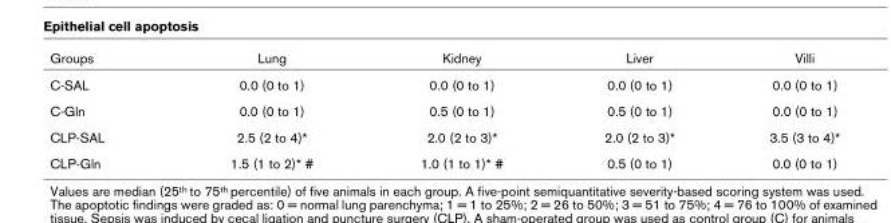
<table><thead><tr><td>Groups</td><td>Lung</td><td>Kidney</td><td>Liver</td><td>Villi</td></tr></thead><tbody><tr><td>C-SAL</td><td>0.0 (0 to 1)</td><td>0.0 (0 to 1)</td><td>0.0 (0 to 1)</td><td>0.0 (0 to 1)</td></tr><tr><td>C-Gln</td><td>0.0 (0 to 1)</td><td>0.5 (0 to 1)</td><td>0.5 (0 to 1)</td><td>0.0 (0 to 1)</td></tr><tr><td>CLP-SAL</td><td>2.5 (2 to 4)*</td><td>2.0 (2 to 3)*</td><td>2.0 (2 to 3)*</td><td>3.5 (3 to 4)*</td></tr><tr><td>CLP-Gln</td><td>1.5 (1 to 2)* #</td><td>1.0 (1 to 1)* #</td><td>0.5 (0 to 1)</td><td>0.0 (0 to 1)</td></tr></tbody></table>